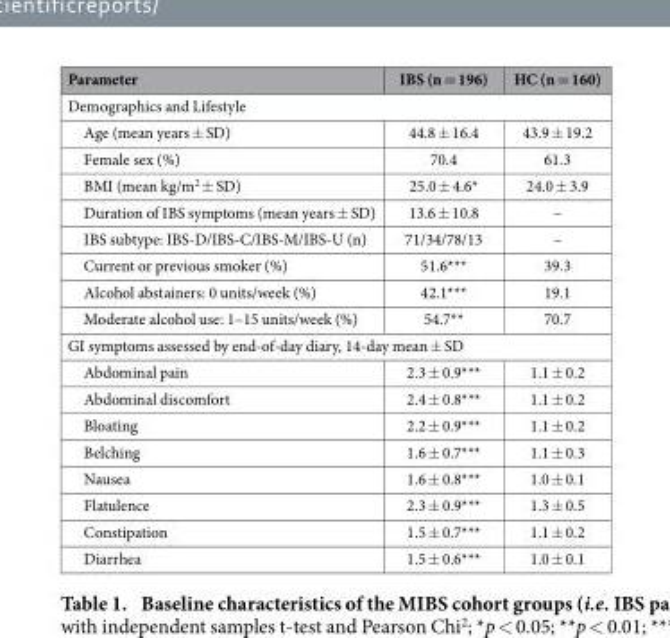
<table><thead><tr><td>Parameter</td><td>IBS (n = 196)</td><td>HC (n = 160)</td></tr></thead><tbody><tr><td colspan="3">Demographics and Lifestyle</td></tr><tr><td>Age (mean years ± SD)</td><td>44.8 ± 16.4</td><td>43.9 ± 19.2</td></tr><tr><td>Female sex (%)</td><td>70.4</td><td>61.3</td></tr><tr><td>BMI (mean kg/m<sup>2</sup> ± SD)</td><td>25.0 ± 4.6*</td><td>24.0 ± 3.9</td></tr><tr><td>Duration of IBS symptoms (mean years ± SD)</td><td>13.6 ± 10.8</td><td>–</td></tr><tr><td>IBS subtype: IBS-D/IBS-C/IBS-M/IBS-U (n)</td><td>71/34/78/13</td><td>–</td></tr><tr><td>Current or previous smoker (%)</td><td>51.6***</td><td>39.3</td></tr><tr><td>Alcohol abstainers: 0 units/week (%)</td><td>42.1***</td><td>19.1</td></tr><tr><td>Moderate alcohol use: 1–15 units/week (%)</td><td>54.7**</td><td>70.7</td></tr><tr><td colspan="3">GI symptoms assessed by end-of-day diary, 14-day mean ± SD</td></tr><tr><td>Abdominal pain</td><td>2.3 ± 0.9***</td><td>1.1 ± 0.2</td></tr><tr><td>Abdominal discomfort</td><td>2.4 ± 0.8***</td><td>1.1 ± 0.2</td></tr><tr><td>Bloating</td><td>2.2 ± 0.9***</td><td>1.1 ± 0.2</td></tr><tr><td>Belching</td><td>1.6 ± 0.7***</td><td>1.1 ± 0.3</td></tr><tr><td>Nausea</td><td>1.6 ± 0.8***</td><td>1.0 ± 0.1</td></tr><tr><td>Flatulence</td><td>2.3 ± 0.9***</td><td>1.3 ± 0.5</td></tr><tr><td>Constipation</td><td>1.5 ± 0.7***</td><td>1.1 ± 0.2</td></tr><tr><td>Diarrhea</td><td>1.5 ± 0.6***</td><td>1.0 ± 0.1</td></tr></tbody></table>